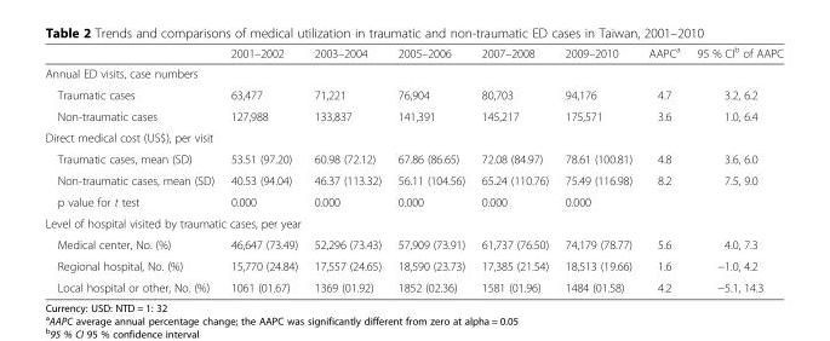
<table><thead><tr><td></td><td>2001–2002</td><td>2003–2004</td><td>2005–2006</td><td>2007–2008</td><td>2009–2010</td><td>AAPC<sup>a</sup></td><td>95 % CI<sup>b</sup> of AAPC</td></tr></thead><tbody><tr><td colspan="8">Annual ED visits, case numbers</td></tr><tr><td>Traumatic cases</td><td>63,477</td><td>71,221</td><td>76,904</td><td>80,703</td><td>94,176</td><td>4.7</td><td>3.2, 6.2</td></tr><tr><td>Non-traumatic cases</td><td>127,988</td><td>133,837</td><td>141,391</td><td>145,217</td><td>175,571</td><td>3.6</td><td>1.0, 6.4</td></tr><tr><td colspan="8">Direct medical cost (US$), per visit</td></tr><tr><td>Traumatic cases, mean (SD)</td><td>53.51 (97.20)</td><td>60.98 (72.12)</td><td>67.86 (86.65)</td><td>72.08 (84.97)</td><td>78.61 (100.81)</td><td>4.8</td><td>3.6, 6.0</td></tr><tr><td>Non-traumatic cases, mean (SD)</td><td>40.53 (94.04)</td><td>46.37 (113.32)</td><td>56.11 (104.56)</td><td>65.24 (110.76)</td><td>75.49 (116.98)</td><td>8.2</td><td>7.5, 9.0</td></tr><tr><td>p value for t test</td><td>0.000</td><td>0.000</td><td>0.000</td><td>0.000</td><td>0.000</td><td></td><td></td></tr><tr><td colspan="8">Level of hospital visited by traumatic cases, per year</td></tr><tr><td>Medical center, No. (%)</td><td>46,647 (73.49)</td><td>52,296 (73.43)</td><td>57,909 (73.91)</td><td>61,737 (76.50)</td><td>74,179 (78.77)</td><td>5.6</td><td>4.0, 7.3</td></tr><tr><td>Regional hospital, No. (%)</td><td>15,770 (24.84)</td><td>17,557 (24.65)</td><td>18,590 (23.73)</td><td>17,385 (21.54)</td><td>18,513 (19.66)</td><td>1.6</td><td>−1.0, 4.2</td></tr><tr><td>Local hospital or other, No. (%)</td><td>1061 (01.67)</td><td>1369 (01.92)</td><td>1852 (02.36)</td><td>1581 (01.96)</td><td>1484 (01.58)</td><td>4.2</td><td>−5.1, 14.3</td></tr></tbody></table>